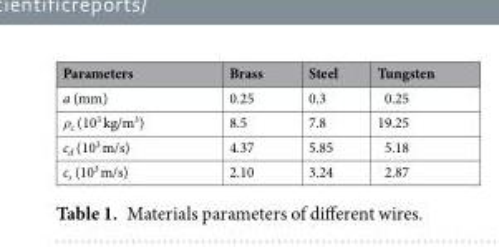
<table><thead><tr><td>Parameters</td><td>Brass</td><td>Steel</td><td>Tungsten</td></tr></thead><tbody><tr><td>a (mm)</td><td>0.25</td><td>0.3</td><td>0.25</td></tr><tr><td>ρ<sub>c</sub> (10<sup>3</sup> kg/m<sup>3</sup>)</td><td>8.5</td><td>7.8</td><td>19.25</td></tr><tr><td>c<sub>d</sub> (10<sup>3</sup> m/s)</td><td>4.37</td><td>5.85</td><td>5.18</td></tr><tr><td>c<sub>s</sub> (10<sup>3</sup> m/s)</td><td>2.10</td><td>3.24</td><td>2.87</td></tr></tbody></table>